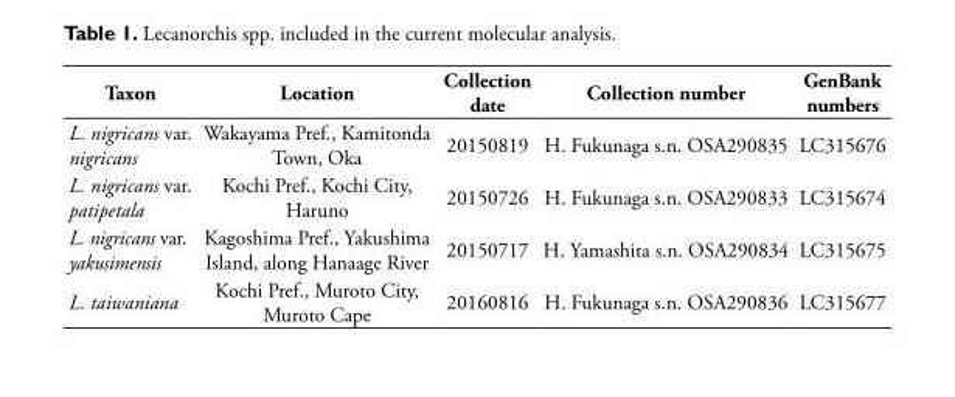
<table><thead><tr><td>Taxon</td><td>Location</td><td>Collection date</td><td>Collection number</td><td>GenBank numbers</td></tr></thead><tbody><tr><td>L. nigricans var. nigricans</td><td>Wakayama Pref., Kamitonda Town, Oka</td><td>20150819</td><td>H. Fukunaga s.n. OSA290835</td><td>LC315676</td></tr><tr><td>L. nigricans var. patipetala</td><td>Kochi Pref., Kochi City, Haruno</td><td>20150726</td><td>H. Fukunaga s.n. OSA290833</td><td>LC315674</td></tr><tr><td>L. nigricans var. yakusimensis</td><td>Kagoshima Pref., Yakushima Island, along Hanaage River</td><td>20150717</td><td>H. Yamashita s.n. OSA290834</td><td>LC315675</td></tr><tr><td>L. taiwaniana</td><td>Kochi Pref., Muroto City, Muroto Cape</td><td>20160816</td><td>H. Fukunaga s.n. OSA290836</td><td>LC315677</td></tr></tbody></table>